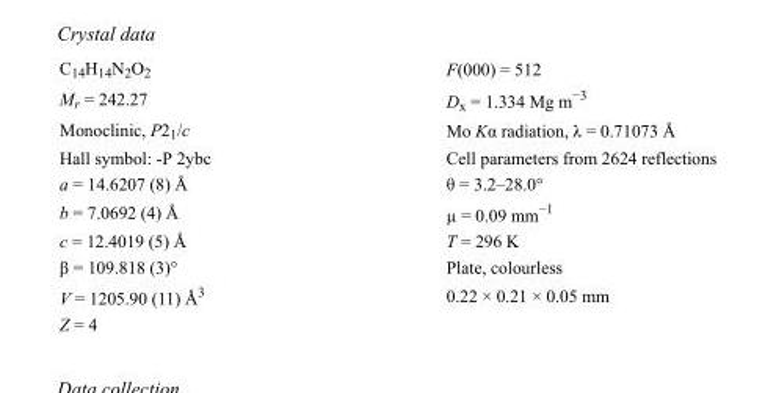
<table><tbody><tr><td>C<sub>14</sub>H<sub>14</sub>N<sub>2</sub>O<sub>2</sub></td><td>F(000) = 512</td></tr><tr><td>M<sub>r</sub> = 242.27</td><td>D<sub>x</sub> = 1.334 Mg m<sup>−3</sup></td></tr><tr><td>Monoclinic, P2<sub>1</sub>/c</td><td>Mo Kα radiation, λ = 0.71073 Å</td></tr><tr><td>Hall symbol: -P 2ybc</td><td>Cell parameters from 2624 reflections</td></tr><tr><td>a = 14.6207 (8) Å</td><td>θ = 3.2–28.0°</td></tr><tr><td>b = 7.0692 (4) Å</td><td>µ = 0.09 mm<sup>−1</sup></td></tr><tr><td>c = 12.4019 (5) Å</td><td>T = 296 K</td></tr><tr><td>β = 109.818 (3)°</td><td>Plate, colourless</td></tr><tr><td>V = 1205.90 (11) Å<sup>3</sup></td><td>0.22 × 0.21 × 0.05 mm</td></tr><tr><td>Z = 4</td><td></td></tr></tbody></table>